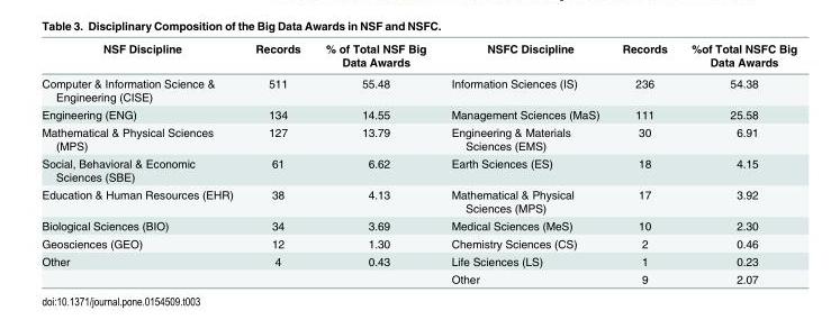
<table><thead><tr><td>NSF Discipline</td><td>Records</td><td>% of Total NSF Big Data Awards</td><td>NSFC Discipline</td><td>Records</td><td>%of Total NSFC Big Data Awards</td></tr></thead><tbody><tr><td>Computer &amp; Information Science &amp; Engineering (CISE)</td><td>511</td><td>55.48</td><td>Information Sciences (IS)</td><td>236</td><td>54.38</td></tr><tr><td>Engineering (ENG)</td><td>134</td><td>14.55</td><td>Management Sciences (MaS)</td><td>111</td><td>25.58</td></tr><tr><td>Mathematical &amp; Physical Sciences (MPS)</td><td>127</td><td>13.79</td><td>Engineering &amp; Materials Sciences (EMS)</td><td>30</td><td>6.91</td></tr><tr><td>Social, Behavioral &amp; Economic Sciences (SBE)</td><td>61</td><td>6.62</td><td>Earth Sciences (ES)</td><td>18</td><td>4.15</td></tr><tr><td>Education &amp; Human Resources (EHR)</td><td>38</td><td>4.13</td><td>Mathematical &amp; Physical Sciences (MPS)</td><td>17</td><td>3.92</td></tr><tr><td>Biological Sciences (BIO)</td><td>34</td><td>3.69</td><td>Medical Sciences (MeS)</td><td>10</td><td>2.30</td></tr><tr><td>Geosciences (GEO)</td><td>12</td><td>1.30</td><td>Chemistry Sciences (CS)</td><td>2</td><td>0.46</td></tr><tr><td rowspan="2">Other</td><td>4</td><td>0.43</td><td>Life Sciences (LS)</td><td>1</td><td>0.23</td></tr><tr><td></td><td></td><td>Other</td><td>9</td><td>2.07</td></tr></tbody></table>